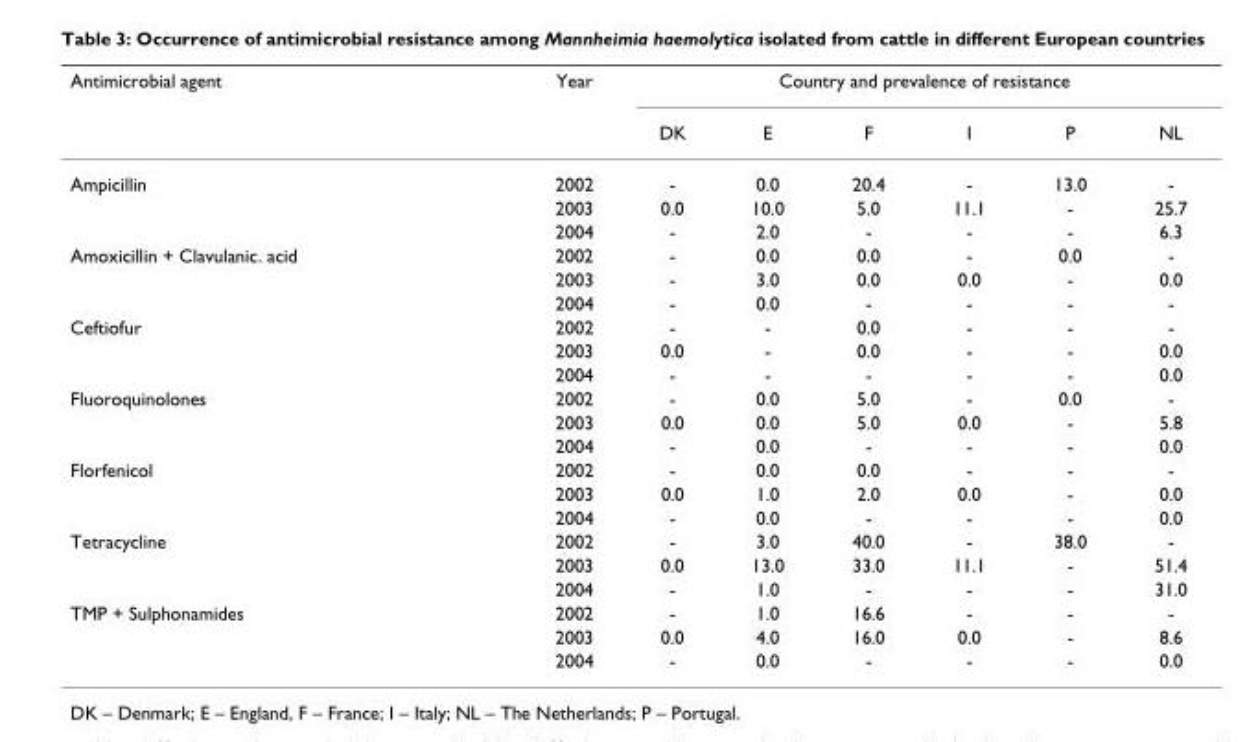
<table><thead><tr><td rowspan="2">Antimicrobial agent</td><td rowspan="2">Year</td><td colspan="6">Country and prevalence of resistance</td></tr><tr><td>DK</td><td>E</td><td>F</td><td>I</td><td>P</td><td>NL</td></tr></thead><tbody><tr><td rowspan="3">Ampicillin</td><td>2002</td><td>-</td><td>0.0</td><td>20.4</td><td>-</td><td>13.0</td><td>-</td></tr><tr><td>2003</td><td>0.0</td><td>10.0</td><td>5.0</td><td>11.1</td><td>-</td><td>25.7</td></tr><tr><td>2004</td><td>-</td><td>2.0</td><td>-</td><td>-</td><td>-</td><td>6.3</td></tr><tr><td rowspan="3">Amoxicillin + Clavulanic. acid</td><td>2002</td><td>-</td><td>0.0</td><td>0.0</td><td>-</td><td>0.0</td><td>-</td></tr><tr><td>2003</td><td>-</td><td>3.0</td><td>0.0</td><td>0.0</td><td>-</td><td>0.0</td></tr><tr><td>2004</td><td>-</td><td>0.0</td><td>-</td><td>-</td><td>-</td><td>-</td></tr><tr><td rowspan="3">Ceftiofur</td><td>2002</td><td>-</td><td>-</td><td>0.0</td><td>-</td><td>-</td><td>-</td></tr><tr><td>2003</td><td>0.0</td><td>-</td><td>0.0</td><td>-</td><td>-</td><td>0.0</td></tr><tr><td>2004</td><td>-</td><td>-</td><td>-</td><td>-</td><td>-</td><td>0.0</td></tr><tr><td rowspan="3">Fluoroquinolones</td><td>2002</td><td>-</td><td>0.0</td><td>5.0</td><td>-</td><td>0.0</td><td>-</td></tr><tr><td>2003</td><td>0.0</td><td>0.0</td><td>5.0</td><td>0.0</td><td>-</td><td>5.8</td></tr><tr><td>2004</td><td>-</td><td>0.0</td><td>-</td><td>-</td><td>-</td><td>0.0</td></tr><tr><td rowspan="3">Florfenicol</td><td>2002</td><td>-</td><td>0.0</td><td>0.0</td><td>-</td><td>-</td><td>-</td></tr><tr><td>2003</td><td>0.0</td><td>1.0</td><td>2.0</td><td>0.0</td><td>-</td><td>0.0</td></tr><tr><td>2004</td><td>-</td><td>0.0</td><td>-</td><td>-</td><td>-</td><td>0.0</td></tr><tr><td rowspan="3">Tetracycline</td><td>2002</td><td>-</td><td>3.0</td><td>40.0</td><td>-</td><td>38.0</td><td>-</td></tr><tr><td>2003</td><td>0.0</td><td>13.0</td><td>33.0</td><td>11.1</td><td>-</td><td>51.4</td></tr><tr><td>2004</td><td>-</td><td>1.0</td><td>-</td><td>-</td><td>-</td><td>31.0</td></tr><tr><td rowspan="3">TMP + Sulphonamides</td><td>2002</td><td>-</td><td>1.0</td><td>16.6</td><td>-</td><td>-</td><td>-</td></tr><tr><td>2003</td><td>0.0</td><td>4.0</td><td>16.0</td><td>0.0</td><td>-</td><td>8.6</td></tr><tr><td>2004</td><td>-</td><td>0.0</td><td>-</td><td>-</td><td>-</td><td>0.0</td></tr></tbody></table>